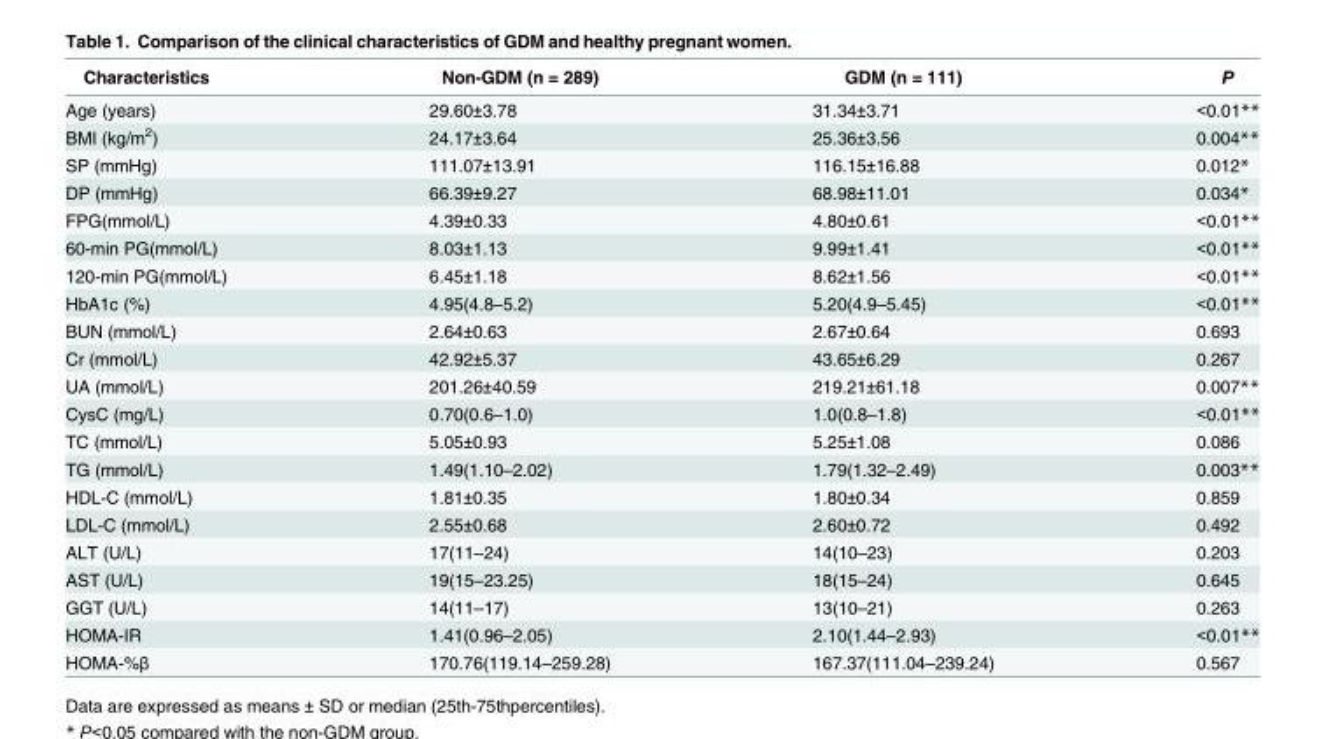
<table><thead><tr><td>Characteristics</td><td>Non-GDM (n = 289)</td><td>GDM (n = 111)</td><td>P</td></tr></thead><tbody><tr><td>Age (years)</td><td>29.60±3.78</td><td>31.34±3.71</td><td>&lt;0.01**</td></tr><tr><td>BMI (kg/m<sup>2</sup>)</td><td>24.17±3.64</td><td>25.36±3.56</td><td>0.004**</td></tr><tr><td>SP (mmHg)</td><td>111.07±13.91</td><td>116.15±16.88</td><td>0.012*</td></tr><tr><td>DP (mmHg)</td><td>66.39±9.27</td><td>68.98±11.01</td><td>0.034*</td></tr><tr><td>FPG(mmol/L)</td><td>4.39±0.33</td><td>4.80±0.61</td><td>&lt;0.01**</td></tr><tr><td>60-min PG(mmol/L)</td><td>8.03±1.13</td><td>9.99±1.41</td><td>&lt;0.01**</td></tr><tr><td>120-min PG(mmol/L)</td><td>6.45±1.18</td><td>8.62±1.56</td><td>&lt;0.01**</td></tr><tr><td>HbA1c (%)</td><td>4.95(4.8–5.2)</td><td>5.20(4.9–5.45)</td><td>&lt;0.01**</td></tr><tr><td>BUN (mmol/L)</td><td>2.64±0.63</td><td>2.67±0.64</td><td>0.693</td></tr><tr><td>Cr (mmol/L)</td><td>42.92±5.37</td><td>43.65±6.29</td><td>0.267</td></tr><tr><td>UA (mmol/L)</td><td>201.26±40.59</td><td>219.21±61.18</td><td>0.007**</td></tr><tr><td>CysC (mg/L)</td><td>0.70(0.6–1.0)</td><td>1.0(0.8–1.8)</td><td>&lt;0.01**</td></tr><tr><td>TC (mmol/L)</td><td>5.05±0.93</td><td>5.25±1.08</td><td>0.086</td></tr><tr><td>TG (mmol/L)</td><td>1.49(1.10–2.02)</td><td>1.79(1.32–2.49)</td><td>0.003**</td></tr><tr><td>HDL-C (mmol/L)</td><td>1.81±0.35</td><td>1.80±0.34</td><td>0.859</td></tr><tr><td>LDL-C (mmol/L)</td><td>2.55±0.68</td><td>2.60±0.72</td><td>0.492</td></tr><tr><td>ALT (U/L)</td><td>17(11–24)</td><td>14(10–23)</td><td>0.203</td></tr><tr><td>AST (U/L)</td><td>19(15–23.25)</td><td>18(15–24)</td><td>0.645</td></tr><tr><td>GGT (U/L)</td><td>14(11–17)</td><td>13(10–21)</td><td>0.263</td></tr><tr><td>HOMA-IR</td><td>1.41(0.96–2.05)</td><td>2.10(1.44–2.93)</td><td>&lt;0.01**</td></tr><tr><td>HOMA-%β</td><td>170.76(119.14–259.28)</td><td>167.37(111.04–239.24)</td><td>0.567</td></tr></tbody></table>